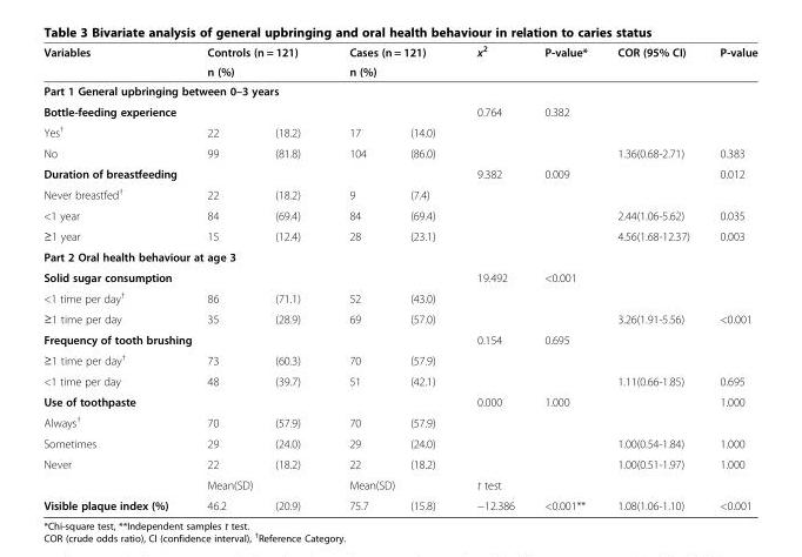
<table><thead><tr><td rowspan="2">Variables</td><td rowspan="2" colspan="2">Controls (n = 121) n (%)</td><td rowspan="2" colspan="2">Cases (n = 121) n (%)</td><td rowspan="2">x<sup>2</sup></td><td rowspan="2">P-value*</td><td rowspan="2">COR (95% CI)</td><td rowspan="2">P-value</td></tr><tr></tr><tr><td colspan="9">Part 1 General upbringing between 0–3 years</td></tr><tr><td>Bottle-feeding experience</td><td></td><td></td><td></td><td></td><td>0.764</td><td>0.382</td><td></td><td></td></tr></thead><tbody><tr><td>Yes<sup>†</sup></td><td>22</td><td>(18.2)</td><td>17</td><td>(14.0)</td><td></td><td></td><td></td><td></td></tr><tr><td>No</td><td>99</td><td>(81.8)</td><td>104</td><td>(86.0)</td><td></td><td></td><td>1.36(0.68-2.71)</td><td>0.383</td></tr><tr><td>Duration of breastfeeding</td><td></td><td></td><td></td><td></td><td>9.382</td><td>0.009</td><td></td><td>0.012</td></tr><tr><td>Never breastfed<sup>†</sup></td><td>22</td><td>(18.2)</td><td>9</td><td>(7.4)</td><td></td><td></td><td></td><td></td></tr><tr><td>&lt;1 year</td><td>84</td><td>(69.4)</td><td>84</td><td>(69.4)</td><td></td><td></td><td>2.44(1.06-5.62)</td><td>0.035</td></tr><tr><td>≥1 year</td><td>15</td><td>(12.4)</td><td>28</td><td>(23.1)</td><td></td><td></td><td>4.56(1.68-12.37)</td><td>0.003</td></tr><tr><td colspan="9">Part 2 Oral health behaviour at age 3</td></tr><tr><td>Solid sugar consumption</td><td></td><td></td><td></td><td></td><td>19.492</td><td>&lt;0.001</td><td></td><td></td></tr><tr><td>&lt;1 time per day<sup>†</sup></td><td>86</td><td>(71.1)</td><td>52</td><td>(43.0)</td><td></td><td></td><td></td><td></td></tr><tr><td>≥1 time per day</td><td>35</td><td>(28.9)</td><td>69</td><td>(57.0)</td><td></td><td></td><td>3.26(1.91-5.56)</td><td>&lt;0.001</td></tr><tr><td colspan="2">Frequency of tooth brushing</td><td></td><td></td><td></td><td>0.154</td><td>0.695</td><td></td><td></td></tr><tr><td>≥1 time per day<sup>†</sup></td><td>73</td><td>(60.3)</td><td>70</td><td>(57.9)</td><td></td><td></td><td></td><td></td></tr><tr><td>&lt;1 time per day</td><td>48</td><td>(39.7)</td><td>51</td><td>(42.1)</td><td></td><td></td><td>1.11(0.66-1.85)</td><td>0.695</td></tr><tr><td>Use of toothpaste</td><td></td><td></td><td></td><td></td><td>0.000</td><td>1.000</td><td></td><td>1.000</td></tr><tr><td>Always<sup>†</sup></td><td>70</td><td>(57.9)</td><td>70</td><td>(57.9)</td><td></td><td></td><td></td><td></td></tr><tr><td>Sometimes</td><td>29</td><td>(24.0)</td><td>29</td><td>(24.0)</td><td></td><td></td><td>1.00(0.54-1.84)</td><td>1.000</td></tr><tr><td rowspan="2">Never</td><td>22</td><td>(18.2)</td><td>22</td><td>(18.2)</td><td></td><td></td><td>1.00(0.51-1.97)</td><td>1.000</td></tr><tr><td colspan="2">Mean(SD)</td><td colspan="2">Mean(SD)</td><td>t test</td><td></td><td></td><td></td></tr><tr><td>Visible plaque index (%)</td><td>46.2</td><td>(20.9)</td><td>75.7</td><td>(15.8)</td><td>−12.386</td><td>&lt;0.001**</td><td>1.08(1.06-1.10)</td><td>&lt;0.001</td></tr></tbody></table>